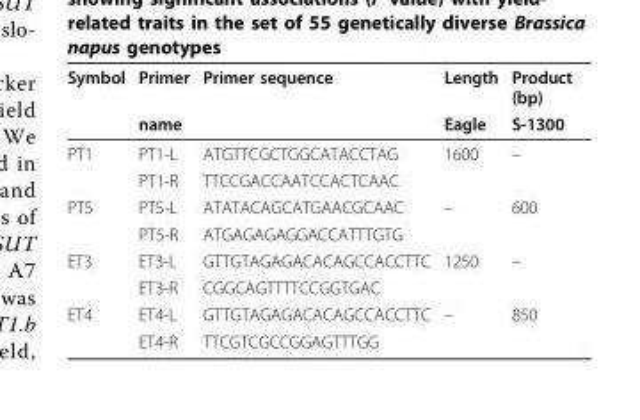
<table><thead><tr><td rowspan="2">Symbol</td><td rowspan="2">Primer name</td><td rowspan="2">Primer sequence</td><td rowspan="2">Length Eagle</td><td rowspan="2">Product (bp) S-1300</td></tr><tr></tr></thead><tbody><tr><td rowspan="2">PT1</td><td>PT1-L</td><td>ATGTTCGCTGGCATACCTAG</td><td>1600</td><td>–</td></tr><tr><td>PT1-R</td><td>TTCCGACCAATCCACTCAAC</td><td></td><td></td></tr><tr><td rowspan="2">PT5</td><td>PT5-L</td><td>ATATACAGCATGAACGCAAC</td><td>–</td><td>600</td></tr><tr><td>PT5-R</td><td>ATGAGAGAGGACCATTTGTG</td><td></td><td></td></tr><tr><td rowspan="2">ET3</td><td>ET3-L</td><td>GTTGTAGAGACACAGCCACCTTC</td><td>1250</td><td>–</td></tr><tr><td>ET3-R</td><td>CGGCAGTTTTCCGGTGAC</td><td></td><td></td></tr><tr><td rowspan="2">ET4</td><td>ET4-L</td><td>GTTGTAGAGACACAGCCACCTTC</td><td>–</td><td>850</td></tr><tr><td>ET4-R</td><td>TTCGTCGCCGGAGTTTGG</td><td></td><td></td></tr></tbody></table>